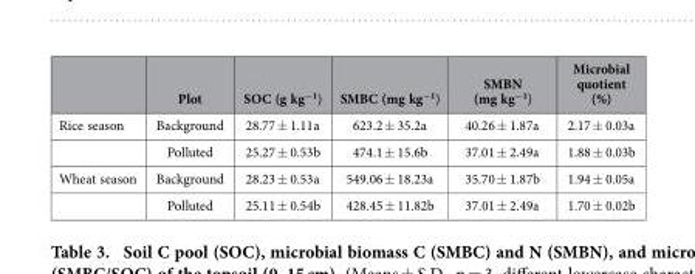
<table><thead><tr><td></td><td>Plot</td><td>SOC (g kg<sup>−1</sup>)</td><td>SMBC (mg kg<sup>−1</sup>)</td><td>SMBN (mg kg<sup>−1</sup>)</td><td>Microbial quotient (%)</td></tr></thead><tbody><tr><td rowspan="2">Rice season</td><td>Background</td><td>28.77 ± 1.11a</td><td>623.2 ± 35.2a</td><td>40.26 ± 1.87a</td><td>2.17 ± 0.03a</td></tr><tr><td>Polluted</td><td>25.27 ± 0.53b</td><td>474.1 ± 15.6b</td><td>37.01 ± 2.49a</td><td>1.88 ± 0.03b</td></tr><tr><td rowspan="2">Wheat season</td><td>Background</td><td>28.23 ± 0.53a</td><td>549.06 ± 18.23a</td><td>35.70 ± 1.87b</td><td>1.94 ± 0.05a</td></tr><tr><td>Polluted</td><td>25.11 ± 0.54b</td><td>428.45 ± 11.82b</td><td>37.01 ± 2.49a</td><td>1.70 ± 0.02b</td></tr></tbody></table>